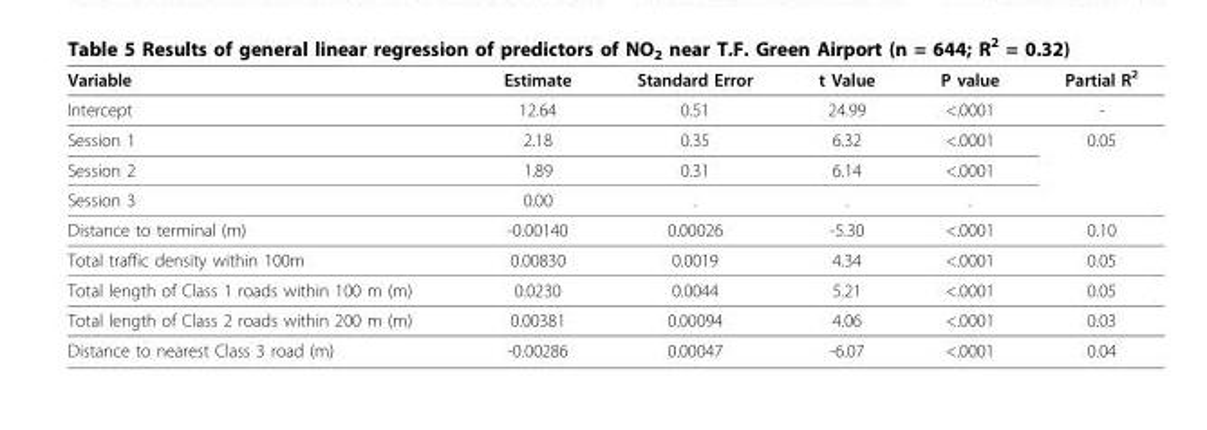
<table><thead><tr><td>Variable</td><td>Estimate</td><td>Standard Error</td><td>t Value</td><td>P value</td><td>Partial R<sup>2</sup></td></tr></thead><tbody><tr><td>Intercept</td><td>12.64</td><td>0.51</td><td>24.99</td><td>&lt;.0001</td><td>-</td></tr><tr><td>Session 1</td><td>2.18</td><td>0.35</td><td>6.32</td><td>&lt;.0001</td><td>0.05</td></tr><tr><td>Session 2</td><td>1.89</td><td>0.31</td><td>6.14</td><td>&lt;.0001</td><td></td></tr><tr><td>Session 3</td><td>0.00</td><td>.</td><td>.</td><td>.</td><td></td></tr><tr><td>Distance to terminal (m)</td><td>-0.00140</td><td>0.00026</td><td>-5.30</td><td>&lt;.0001</td><td>0.10</td></tr><tr><td>Total traffic density within 100m</td><td>0.00830</td><td>0.0019</td><td>4.34</td><td>&lt;.0001</td><td>0.05</td></tr><tr><td>Total length of Class 1 roads within 100 m (m)</td><td>0.0230</td><td>0.0044</td><td>5.21</td><td>&lt;.0001</td><td>0.05</td></tr><tr><td>Total length of Class 2 roads within 200 m (m)</td><td>0.00381</td><td>0.00094</td><td>4.06</td><td>&lt;.0001</td><td>0.03</td></tr><tr><td>Distance to nearest Class 3 road (m)</td><td>-0.00286</td><td>0.00047</td><td>-6.07</td><td>&lt;.0001</td><td>0.04</td></tr></tbody></table>